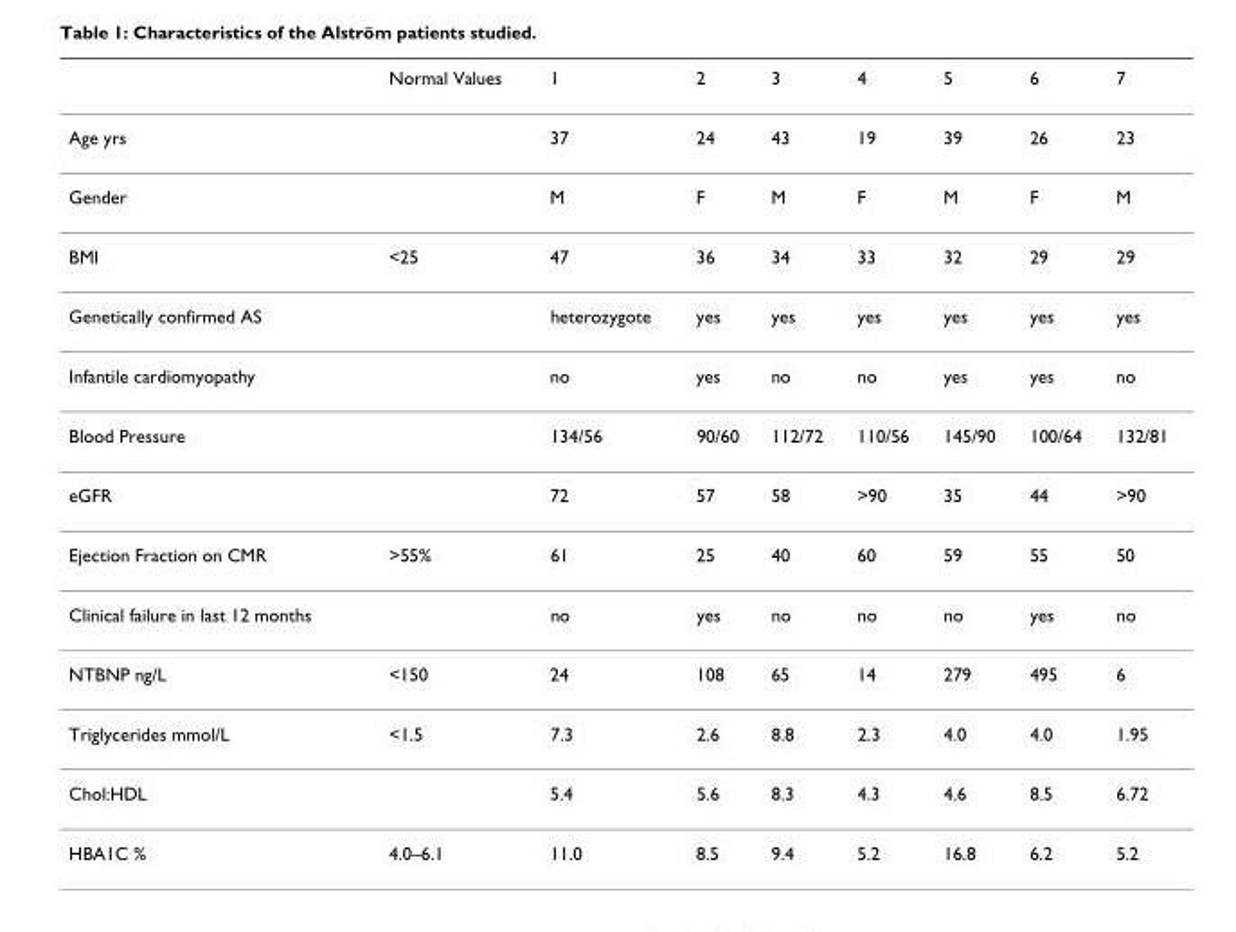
<table><thead><tr><td></td><td>Normal Values</td><td>1</td><td>2</td><td>3</td><td>4</td><td>5</td><td>6</td><td>7</td></tr></thead><tbody><tr><td>Age yrs</td><td></td><td>37</td><td>24</td><td>43</td><td>19</td><td>39</td><td>26</td><td>23</td></tr><tr><td>Gender</td><td></td><td>M</td><td>F</td><td>M</td><td>F</td><td>M</td><td>F</td><td>M</td></tr><tr><td>BMI</td><td>&lt;25</td><td>47</td><td>36</td><td>34</td><td>33</td><td>32</td><td>29</td><td>29</td></tr><tr><td>Genetically confirmed AS</td><td></td><td>heterozygote</td><td>yes</td><td>yes</td><td>yes</td><td>yes</td><td>yes</td><td>yes</td></tr><tr><td>Infantile cardiomyopathy</td><td></td><td>no</td><td>yes</td><td>no</td><td>no</td><td>yes</td><td>yes</td><td>no</td></tr><tr><td>Blood Pressure</td><td></td><td>134/56</td><td>90/60</td><td>112/72</td><td>110/56</td><td>145/90</td><td>100/64</td><td>132/81</td></tr><tr><td>eGFR</td><td></td><td>72</td><td>57</td><td>58</td><td>&gt;90</td><td>35</td><td>44</td><td>&gt;90</td></tr><tr><td>Ejection Fraction on CMR</td><td>&gt;55%</td><td>61</td><td>25</td><td>40</td><td>60</td><td>59</td><td>55</td><td>50</td></tr><tr><td>Clinical failure in last 12 months</td><td></td><td>no</td><td>yes</td><td>no</td><td>no</td><td>no</td><td>yes</td><td>no</td></tr><tr><td>NTBNP ng/L</td><td>&lt;150</td><td>24</td><td>108</td><td>65</td><td>14</td><td>279</td><td>495</td><td>6</td></tr><tr><td>Triglycerides mmol/L</td><td>&lt;1.5</td><td>7.3</td><td>2.6</td><td>8.8</td><td>2.3</td><td>4.0</td><td>4.0</td><td>1.95</td></tr><tr><td>Chol:HDL</td><td></td><td>5.4</td><td>5.6</td><td>8.3</td><td>4.3</td><td>4.6</td><td>8.5</td><td>6.72</td></tr><tr><td>HBA1C %</td><td>4.0–6.1</td><td>11.0</td><td>8.5</td><td>9.4</td><td>5.2</td><td>16.8</td><td>6.2</td><td>5.2</td></tr></tbody></table>